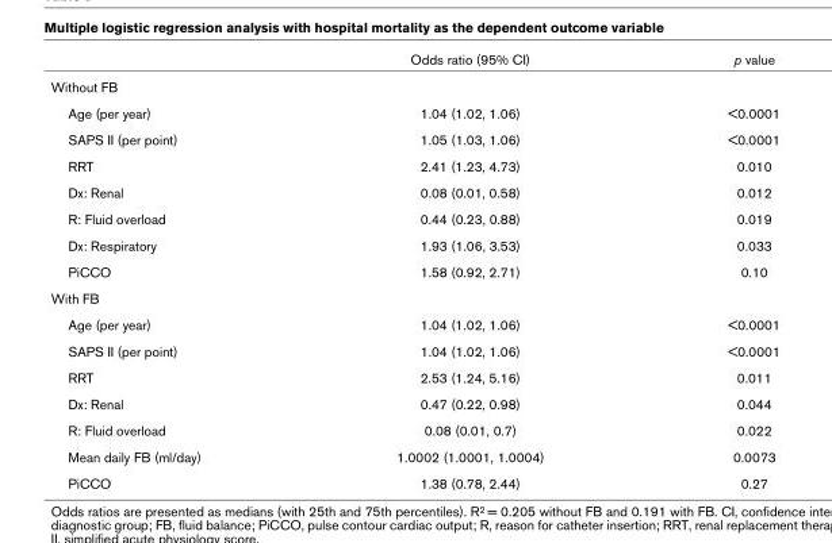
<table><thead><tr><td></td><td>Odds ratio (95% CI)</td><td>p value</td></tr></thead><tbody><tr><td colspan="3">Without FB</td></tr><tr><td>Age (per year)</td><td>1.04 (1.02, 1.06)</td><td>&lt;0.0001</td></tr><tr><td>SAPS II (per point)</td><td>1.05 (1.03, 1.06)</td><td>&lt;0.0001</td></tr><tr><td>RRT</td><td>2.41 (1.23, 4.73)</td><td>0.010</td></tr><tr><td>Dx: Renal</td><td>0.08 (0.01, 0.58)</td><td>0.012</td></tr><tr><td>R: Fluid overload</td><td>0.44 (0.23, 0.88)</td><td>0.019</td></tr><tr><td>Dx: Respiratory</td><td>1.93 (1.06, 3.53)</td><td>0.033</td></tr><tr><td>PiCCO</td><td>1.58 (0.92, 2.71)</td><td>0.10</td></tr><tr><td colspan="3">With FB</td></tr><tr><td>Age (per year)</td><td>1.04 (1.02, 1.06)</td><td>&lt;0.0001</td></tr><tr><td>SAPS II (per point)</td><td>1.04 (1.02, 1.06)</td><td>&lt;0.0001</td></tr><tr><td>RRT</td><td>2.53 (1.24, 5.16)</td><td>0.011</td></tr><tr><td>Dx: Renal</td><td>0.47 (0.22, 0.98)</td><td>0.044</td></tr><tr><td>R: Fluid overload</td><td>0.08 (0.01, 0.7)</td><td>0.022</td></tr><tr><td>Mean daily FB (ml/day)</td><td>1.0002 (1.0001, 1.0004)</td><td>0.0073</td></tr><tr><td>PiCCO</td><td>1.38 (0.78, 2.44)</td><td>0.27</td></tr></tbody></table>